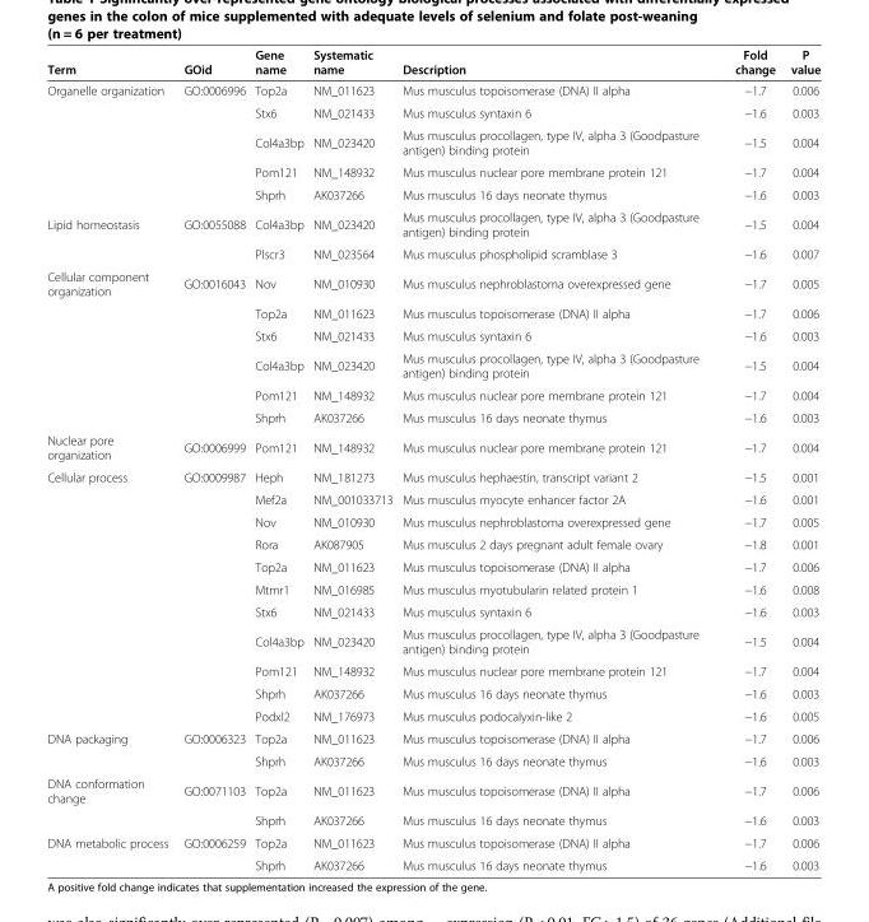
<table><thead><tr><td>Term</td><td>GOid</td><td>Gene name</td><td>Systematic name</td><td>Description</td><td>Fold change</td><td>P value</td></tr></thead><tbody><tr><td rowspan="5">Organelle organization</td><td>GO:0006996</td><td>Top2a</td><td>NM_011623</td><td>Mus musculus topoisomerase (DNA) II alpha</td><td>−1.7</td><td>0.006</td></tr><tr><td></td><td>Stx6</td><td>NM_021433</td><td>Mus musculus syntaxin 6</td><td>−1.6</td><td>0.003</td></tr><tr><td></td><td>Col4a3bp</td><td>NM_023420</td><td>Mus musculus procollagen, type IV, alpha 3 (Goodpasture antigen) binding protein</td><td>−1.5</td><td>0.004</td></tr><tr><td></td><td>Pom121</td><td>NM_148932</td><td>Mus musculus nuclear pore membrane protein 121</td><td>−1.7</td><td>0.004</td></tr><tr><td></td><td>Shprh</td><td>AK037266</td><td>Mus musculus 16 days neonate thymus</td><td>−1.6</td><td>0.003</td></tr><tr><td rowspan="2">Lipid homeostasis</td><td>GO:0055088</td><td>Col4a3bp</td><td>NM_023420</td><td>Mus musculus procollagen, type IV, alpha 3 (Goodpasture antigen) binding protein</td><td>−1.5</td><td>0.004</td></tr><tr><td></td><td>Plscr3</td><td>NM_023564</td><td>Mus musculus phospholipid scramblase 3</td><td>−1.6</td><td>0.007</td></tr><tr><td rowspan="6">Cellular component organization</td><td>GO:0016043</td><td>Nov</td><td>NM_010930</td><td>Mus musculus nephroblastoma overexpressed gene</td><td>−1.7</td><td>0.005</td></tr><tr><td></td><td>Top2a</td><td>NM_011623</td><td>Mus musculus topoisomerase (DNA) II alpha</td><td>−1.7</td><td>0.006</td></tr><tr><td></td><td>Stx6</td><td>NM_021433</td><td>Mus musculus syntaxin 6</td><td>−1.6</td><td>0.003</td></tr><tr><td></td><td>Col4a3bp</td><td>NM_023420</td><td>Mus musculus procollagen, type IV, alpha 3 (Goodpasture antigen) binding protein</td><td>−1.5</td><td>0.004</td></tr><tr><td></td><td>Pom121</td><td>NM_148932</td><td>Mus musculus nuclear pore membrane protein 121</td><td>−1.7</td><td>0.004</td></tr><tr><td></td><td>Shprh</td><td>AK037266</td><td>Mus musculus 16 days neonate thymus</td><td>−1.6</td><td>0.003</td></tr><tr><td>Nuclear pore organization</td><td>GO:0006999</td><td>Pom121</td><td>NM_148932</td><td>Mus musculus nuclear pore membrane protein 121</td><td>−1.7</td><td>0.004</td></tr><tr><td rowspan="11">Cellular process</td><td>GO:0009987</td><td>Heph</td><td>NM_181273</td><td>Mus musculus hephaestin, transcript variant 2</td><td>−1.5</td><td>0.001</td></tr><tr><td></td><td>Mef2a</td><td>NM_001033713</td><td>Mus musculus myocyte enhancer factor 2A</td><td>−1.6</td><td>0.001</td></tr><tr><td></td><td>Nov</td><td>NM_010930</td><td>Mus musculus nephroblastoma overexpressed gene</td><td>−1.7</td><td>0.005</td></tr><tr><td></td><td>Rora</td><td>AK087905</td><td>Mus musculus 2 days pregnant adult female ovary</td><td>−1.8</td><td>0.001</td></tr><tr><td></td><td>Top2a</td><td>NM_011623</td><td>Mus musculus topoisomerase (DNA) II alpha</td><td>−1.7</td><td>0.006</td></tr><tr><td></td><td>Mtmr1</td><td>NM_016985</td><td>Mus musculus myotubularin related protein 1</td><td>−1.6</td><td>0.008</td></tr><tr><td></td><td>Stx6</td><td>NM_021433</td><td>Mus musculus syntaxin 6</td><td>−1.6</td><td>0.003</td></tr><tr><td></td><td>Col4a3bp</td><td>NM_023420</td><td>Mus musculus procollagen, type IV, alpha 3 (Goodpasture antigen) binding protein</td><td>−1.5</td><td>0.004</td></tr><tr><td></td><td>Pom121</td><td>NM_148932</td><td>Mus musculus nuclear pore membrane protein 121</td><td>−1.7</td><td>0.004</td></tr><tr><td></td><td>Shprh</td><td>AK037266</td><td>Mus musculus 16 days neonate thymus</td><td>−1.6</td><td>0.003</td></tr><tr><td></td><td>Podxl2</td><td>NM_176973</td><td>Mus musculus podocalyxin-like 2</td><td>−1.6</td><td>0.005</td></tr><tr><td rowspan="2">DNA packaging</td><td>GO:0006323</td><td>Top2a</td><td>NM_011623</td><td>Mus musculus topoisomerase (DNA) II alpha</td><td>−1.7</td><td>0.006</td></tr><tr><td></td><td>Shprh</td><td>AK037266</td><td>Mus musculus 16 days neonate thymus</td><td>−1.6</td><td>0.003</td></tr><tr><td rowspan="2">DNA conformation change</td><td>GO:0071103</td><td>Top2a</td><td>NM_011623</td><td>Mus musculus topoisomerase (DNA) II alpha</td><td>−1.7</td><td>0.006</td></tr><tr><td></td><td>Shprh</td><td>AK037266</td><td>Mus musculus 16 days neonate thymus</td><td>−1.6</td><td>0.003</td></tr><tr><td rowspan="2">DNA metabolic process</td><td>GO:0006259</td><td>Top2a</td><td>NM_011623</td><td>Mus musculus topoisomerase (DNA) II alpha</td><td>−1.7</td><td>0.006</td></tr><tr><td></td><td>Shprh</td><td>AK037266</td><td>Mus musculus 16 days neonate thymus</td><td>−1.6</td><td>0.003</td></tr></tbody></table>